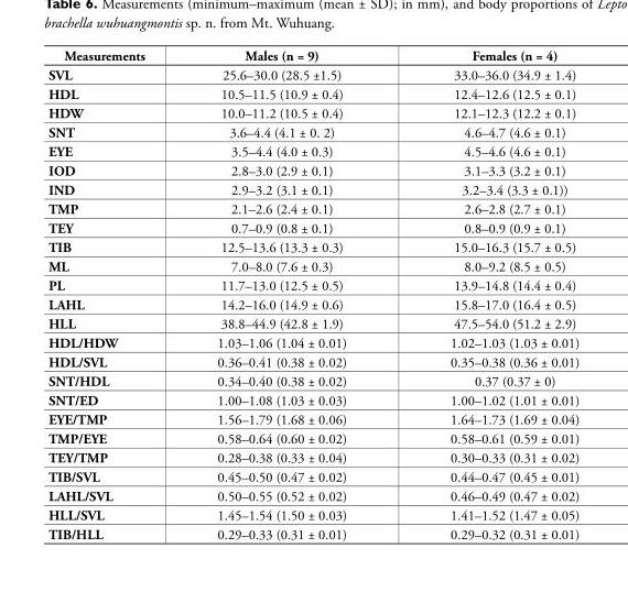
<table><thead><tr><td>Measurements</td><td>Males (n = 9)</td><td>Females (n = 4)</td></tr></thead><tbody><tr><td>SVL</td><td>25.6–30.0 (28.5 ±1.5)</td><td>33.0–36.0 (34.9 ± 1.4)</td></tr><tr><td>HDL</td><td>10.5–11.5 (10.9 ± 0.4)</td><td>12.4–12.6 (12.5 ± 0.1)</td></tr><tr><td>HDW</td><td>10.0–11.2 (10.5 ± 0.4)</td><td>12.1–12.3 (12.2 ± 0.1)</td></tr><tr><td>SNT</td><td>3.6–4.4 (4.1 ± 0. 2)</td><td>4.6–4.7 (4.6 ± 0.1)</td></tr><tr><td>EYE</td><td>3.5–4.4 (4.0 ± 0.3)</td><td>4.5–4.6 (4.6 ± 0.1)</td></tr><tr><td>IOD</td><td>2.8–3.0 (2.9 ± 0.1)</td><td>3.1–3.3 (3.2 ± 0.1)</td></tr><tr><td>IND</td><td>2.9–3.2 (3.1 ± 0.1)</td><td>3.2–3.4 (3.3 ± 0.1))</td></tr><tr><td>TMP</td><td>2.1–2.6 (2.4 ± 0.1)</td><td>2.6–2.8 (2.7 ± 0.1)</td></tr><tr><td>TEY</td><td>0.7–0.9 (0.8 ± 0.1)</td><td>0.8–0.9 (0.9 ± 0.1)</td></tr><tr><td>TIB</td><td>12.5–13.6 (13.3 ± 0.3)</td><td>15.0–16.3 (15.7 ± 0.5)</td></tr><tr><td>ML</td><td>7.0–8.0 (7.6 ± 0.3)</td><td>8.0–9.2 (8.5 ± 0.5)</td></tr><tr><td>PL</td><td>11.7–13.0 (12.5 ± 0.5)</td><td>13.9–14.8 (14.4 ± 0.4)</td></tr><tr><td>LAHL</td><td>14.2–16.0 (14.9 ± 0.6)</td><td>15.8–17.0 (16.4 ± 0.5)</td></tr><tr><td>HLL</td><td>38.8–44.9 (42.8 ± 1.9)</td><td>47.5–54.0 (51.2 ± 2.9)</td></tr><tr><td>HDL/HDW</td><td>1.03–1.06 (1.04 ± 0.01)</td><td>1.02–1.03 (1.03 ± 0.01)</td></tr><tr><td>HDL/SVL</td><td>0.36–0.41 (0.38 ± 0.02)</td><td>0.35–0.38 (0.36 ± 0.01)</td></tr><tr><td>SNT/HDL</td><td>0.34–0.40 (0.38 ± 0.02)</td><td>0.37 (0.37 ± 0)</td></tr><tr><td>SNT/ED</td><td>1.00–1.08 (1.03 ± 0.03)</td><td>1.00–1.02 (1.01 ± 0.01)</td></tr><tr><td>EYE/TMP</td><td>1.56–1.79 (1.68 ± 0.06)</td><td>1.64–1.73 (1.69 ± 0.04)</td></tr><tr><td>TMP/EYE</td><td>0.58–0.64 (0.60 ± 0.02)</td><td>0.58–0.61 (0.59 ± 0.01)</td></tr><tr><td>TEY/TMP</td><td>0.28–0.38 (0.33 ± 0.04)</td><td>0.30–0.33 (0.31 ± 0.02)</td></tr><tr><td>TIB/SVL</td><td>0.45–0.50 (0.47 ± 0.02)</td><td>0.44–0.47 (0.45 ± 0.01)</td></tr><tr><td>LAHL/SVL</td><td>0.50–0.55 (0.52 ± 0.02)</td><td>0.46–0.49 (0.47 ± 0.02)</td></tr><tr><td>HLL/SVL</td><td>1.45–1.54 (1.50 ± 0.03)</td><td>1.41–1.52 (1.47 ± 0.05)</td></tr><tr><td>TIB/HLL</td><td>0.29–0.33 (0.31 ± 0.01)</td><td>0.29–0.32 (0.31 ± 0.01)</td></tr></tbody></table>